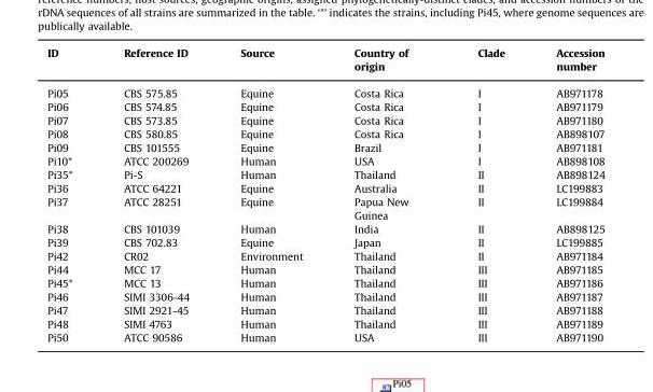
<table><thead><tr><td>ID</td><td>Reference ID</td><td>Source</td><td>Country of origin</td><td>Clade</td><td>Accession number</td></tr></thead><tbody><tr><td>Pi05</td><td>CBS 575.85</td><td>Equine</td><td>Costa Rica</td><td>I</td><td>AB971178</td></tr><tr><td>Pi06</td><td>CBS 574.85</td><td>Equine</td><td>Costa Rica</td><td>I</td><td>AB971179</td></tr><tr><td>Pi07</td><td>CBS 573.85</td><td>Equine</td><td>Costa Rica</td><td>I</td><td>AB971180</td></tr><tr><td>Pi08</td><td>CBS 580.85</td><td>Equine</td><td>Costa Rica</td><td>I</td><td>AB898107</td></tr><tr><td>Pi09</td><td>CBS 101555</td><td>Equine</td><td>Brazil</td><td>I</td><td>AB971181</td></tr><tr><td>Pi10*</td><td>ATCC 200269</td><td>Human</td><td>USA</td><td>I</td><td>AB898108</td></tr><tr><td>Pi35*</td><td>Pi-S</td><td>Human</td><td>Thailand</td><td>II</td><td>AB898124</td></tr><tr><td>Pi36</td><td>ATCC 64221</td><td>Equine</td><td>Australia</td><td>II</td><td>LC199883</td></tr><tr><td>Pi37</td><td>ATCC 28251</td><td>Equine</td><td>Papua New Guinea</td><td>II</td><td>LC199884</td></tr><tr><td>Pi38</td><td>CBS 101039</td><td>Human</td><td>India</td><td>II</td><td>AB898125</td></tr><tr><td>Pi39</td><td>CBS 702.83</td><td>Equine</td><td>Japan</td><td>II</td><td>LC199885</td></tr><tr><td>Pi42</td><td>CR02</td><td>Environment</td><td>Thailand</td><td>II</td><td>AB971184</td></tr><tr><td>Pi44</td><td>MCC 17</td><td>Human</td><td>Thailand</td><td>III</td><td>AB971185</td></tr><tr><td>Pi45*</td><td>MCC 13</td><td>Human</td><td>Thailand</td><td>III</td><td>AB971186</td></tr><tr><td>Pi46</td><td>SIMI 3306-44</td><td>Human</td><td>Thailand</td><td>III</td><td>AB971187</td></tr><tr><td>Pi47</td><td>SIMI 2921-45</td><td>Human</td><td>Thailand</td><td>III</td><td>AB971188</td></tr><tr><td>Pi48</td><td>SIMI 4763</td><td>Human</td><td>Thailand</td><td>III</td><td>AB971189</td></tr><tr><td>Pi50</td><td>ATCC 90586</td><td>Human</td><td>USA</td><td>III</td><td>AB971190</td></tr></tbody></table>